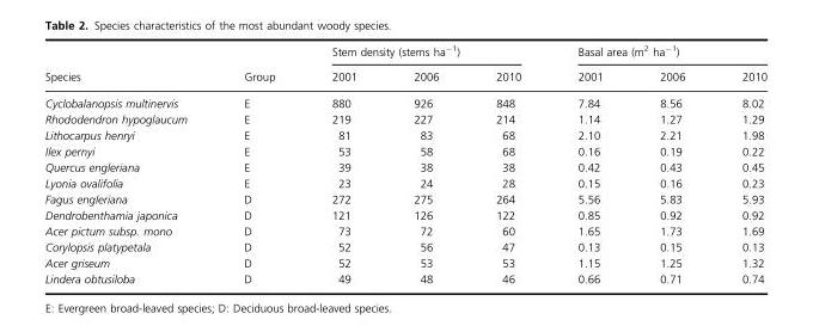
<table><thead><tr><td rowspan="2">Species</td><td rowspan="2">Group</td><td colspan="3">Stem density (stems ha<sup>−1</sup>)</td><td colspan="3">Basal area (m<sup>2</sup> ha<sup>−1</sup>)</td></tr><tr><td>2001</td><td>2006</td><td>2010</td><td>2001</td><td>2006</td><td>2010</td></tr></thead><tbody><tr><td>Cyclobalanopsis multinervis</td><td>E</td><td>880</td><td>926</td><td>848</td><td>7.84</td><td>8.56</td><td>8.02</td></tr><tr><td>Rhododendron hypoglaucum</td><td>E</td><td>219</td><td>227</td><td>214</td><td>1.14</td><td>1.27</td><td>1.29</td></tr><tr><td>Lithocarpus henryi</td><td>E</td><td>81</td><td>83</td><td>68</td><td>2.10</td><td>2.21</td><td>1.98</td></tr><tr><td>Ilex pernyi</td><td>E</td><td>53</td><td>58</td><td>68</td><td>0.16</td><td>0.19</td><td>0.22</td></tr><tr><td>Quercus engleriana</td><td>E</td><td>39</td><td>38</td><td>38</td><td>0.42</td><td>0.43</td><td>0.45</td></tr><tr><td>Lyonia ovalifolia</td><td>E</td><td>23</td><td>24</td><td>28</td><td>0.15</td><td>0.16</td><td>0.23</td></tr><tr><td>Fagus engleriana</td><td>D</td><td>272</td><td>275</td><td>264</td><td>5.56</td><td>5.83</td><td>5.93</td></tr><tr><td>Dendrobenthamia japonica</td><td>D</td><td>121</td><td>126</td><td>122</td><td>0.85</td><td>0.92</td><td>0.92</td></tr><tr><td>Acer pictum subsp. mono</td><td>D</td><td>73</td><td>72</td><td>60</td><td>1.65</td><td>1.73</td><td>1.69</td></tr><tr><td>Corylopsis platypetala</td><td>D</td><td>52</td><td>56</td><td>47</td><td>0.13</td><td>0.15</td><td>0.13</td></tr><tr><td>Acer griseum</td><td>D</td><td>52</td><td>53</td><td>53</td><td>1.15</td><td>1.25</td><td>1.32</td></tr><tr><td>Lindera obtusiloba</td><td>D</td><td>49</td><td>48</td><td>46</td><td>0.66</td><td>0.71</td><td>0.74</td></tr></tbody></table>